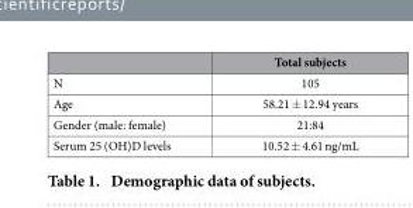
<table><thead><tr><td></td><td>Total subjects</td></tr></thead><tbody><tr><td>N</td><td>105</td></tr><tr><td>Age</td><td>58.21 ± 12.94 years</td></tr><tr><td>Gender (male: female)</td><td>21:84</td></tr><tr><td>Serum 25 (OH)D levels</td><td>10.52 ± 4.61 ng/mL</td></tr></tbody></table>